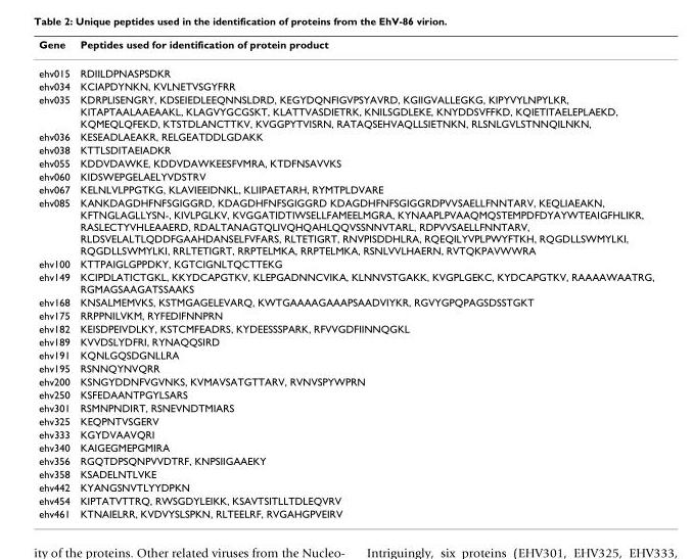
<table><thead><tr><td>Gene</td><td>Peptides used for identification of protein product</td></tr></thead><tbody><tr><td>ehv015</td><td>RDIILDPNASPSDKR</td></tr><tr><td>ehv034</td><td>KCIAPDYNKN, KVLNETVSGYFRR</td></tr><tr><td>ehv035</td><td>KDRPLISENGRY, KDSEIEDLEEQNNSLDRD, KEGYDQNFIGVPSYAVRD, KGIIGVALLEGKG, KIPYVYLNPYLKR, KITAPTAALAAEAAKL, KLAGVYGCGSKT, KLATTVASDIETRK, KNILSGDLEKE, KNYDDSVFFKD, KQIETITAELEPLAEKD, KQMEQLQFEKD, KTSTDLANCTTKV, KVGGPYTVISRN, RATAQSEHVAQLLSIETNKN, RLSNLGVLSTNNQILNKN,</td></tr><tr><td>ehv036</td><td>KESEADLAEAKR, RELGEATDDLGDAKK</td></tr><tr><td>ehv038</td><td>KTTLSDITAEIADKR</td></tr><tr><td>ehv055</td><td>KDDVDAWKE, KDDVDAWKEESFVMRA, KTDFNSAVVKS</td></tr><tr><td>ehv060</td><td>KIDSWEPGELAELYVDSTRV</td></tr><tr><td>ehv067</td><td>KELNLVLPPGTKG, KLAVIEEIDNKL, KLIIPAETARH, RYMTPLDVARE</td></tr><tr><td>ehv085</td><td>KANKDAGDHFNFSGIGGRD, KDAGDHFNFSGIGGRD KDAGDHFNFSGIGGRDPVVSAELLFNNTARV, KEQLIAEAKN, KFTNGLAGLLYSN-, KIVLPGLKV, KVGGATIDTIWSELLFAMEELMGRA, KYNAAPLPVAAQMQSTEMPDFDYAYWTEAIGFHLIKR, RASLECTYVHLEAAERD, RDALTANAGTQLIVQHQAHLQQVSSNNVTARL, RDPVVSAELLFNNTARV, RLDSVELALTLQDDFGAAHDANSELFVFARS, RLTETIGRT, RNVPISDDHLRA, RQEQILYVPLPWYFTKH, RQGDLLSWMYLKI, RQGDLLSWMYLKI, RRLTETIGRT, RRPTELMKA, RRPTELMKA, RSNLVVLHAERN, RVTQKPAVWWRA</td></tr><tr><td>ehv100</td><td>KTTPAIGLGPPDKY, KGTCIGNLTQCTTEKG</td></tr><tr><td>ehv149</td><td>KCIPDLATICTGKL, KKYDCAPGTKV, KLEPGADNNCVIKA, KLNNVSTGAKK, KVGPLGEKC, KYDCAPGTKV, RAAAAWAATRG, RGMAGSAAGATSSAAKS</td></tr><tr><td>ehv168</td><td>KNSALMEMVKS, KSTMGAGELEVARQ, KWTGAAAAGAAAPSAADVIYKR, RGVYGPQPAGSDSSTGKT</td></tr><tr><td>ehv175</td><td>RRPPNILVKM, RYFEDIFNNPRN</td></tr><tr><td>ehv182</td><td>KEISDPEIVDLKY, KSTCMFEADRS, KYDEESSSPARK, RFVVGDFIINNQGKL</td></tr><tr><td>ehv189</td><td>KVVDSLYDFRI, RYNAQQSIRD</td></tr><tr><td>ehv191</td><td>KQNLGQSDGNLLRA</td></tr><tr><td>ehv195</td><td>RSNNQYNVQRR</td></tr><tr><td>ehv200</td><td>KSNGYDDNFVGVNKS, KVMAVSATGTTARV, RVNVSPYWPRN</td></tr><tr><td>ehv250</td><td>KSFEDAANTPGYLSARS</td></tr><tr><td>ehv301</td><td>RSMNPNDIRT, RSNEVNDTMIARS</td></tr><tr><td>ehv325</td><td>KEQPNTVSGERV</td></tr><tr><td>ehv333</td><td>KGYDVAAVQRI</td></tr><tr><td>ehv340</td><td>KAIGEGMEPGMIRA</td></tr><tr><td>ehv356</td><td>RGQTDPSQNPVVDTRF, KNPSIIGAAEKY</td></tr><tr><td>ehv358</td><td>KSADELNTLVKE</td></tr><tr><td>ehv442</td><td>KYANGSNVTLYYDPKN</td></tr><tr><td>ehv454</td><td>KIPTATVTTRQ, RWSGDYLEIKK, KSAVTSITLLTDLEQVRV</td></tr><tr><td>ehv461</td><td>KTNAIELRR, KVDVYSLSPKN, RLTEELRF, RVGAHGPVEIRV</td></tr></tbody></table>